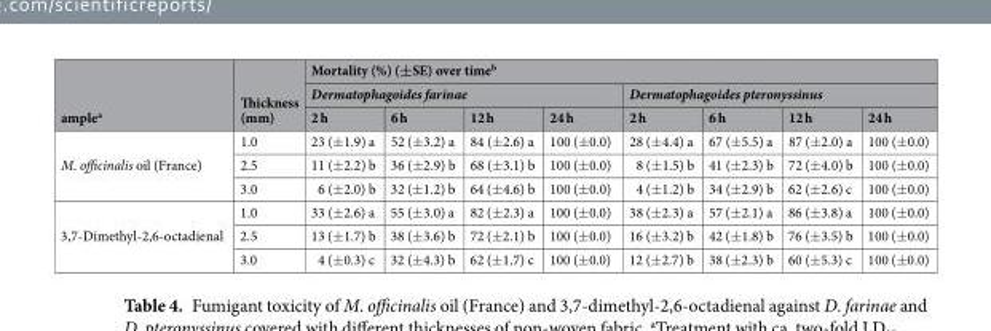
<table><thead><tr><td rowspan="3">ample<sup>a</sup></td><td rowspan="3">Thickness (mm)</td><td colspan="8">Mortality (%) (±SE) over time<sup>b</sup></td></tr><tr><td colspan="4">Dermatophagoides farinae</td><td colspan="4">Dermatophagoides pteronyssinus</td></tr><tr><td>2 h</td><td>6 h</td><td>12 h</td><td>24 h</td><td>2 h</td><td>6 h</td><td>12 h</td><td>24 h</td></tr></thead><tbody><tr><td rowspan="3">M. officinalis oil (France)</td><td>1.0</td><td>23 (±1.9) a</td><td>52 (±3.2) a</td><td>84 (±2.6) a</td><td>100 (±0.0)</td><td>28 (±4.4) a</td><td>67 (±5.5) a</td><td>87 (±2.0) a</td><td>100 (±0.0)</td></tr><tr><td>2.5</td><td>11 (±2.2) b</td><td>36 (±2.9) b</td><td>68 (±3.1) b</td><td>100 (±0.0)</td><td>8 (±1.5) b</td><td>41 (±2.3) b</td><td>72 (±4.0) b</td><td>100 (±0.0)</td></tr><tr><td>3.0</td><td>6 (±2.0) b</td><td>32 (±1.2) b</td><td>64 (±4.6) b</td><td>100 (±0.0)</td><td>4 (±1.2) b</td><td>34 (±2.9) b</td><td>62 (±2.6) c</td><td>100 (±0.0)</td></tr><tr><td rowspan="3">3,7-Dimethyl-2,6-octadienal</td><td>1.0</td><td>33 (±2.6) a</td><td>55 (±3.0) a</td><td>82 (±2.3) a</td><td>100 (±0.0)</td><td>38 (±2.3) a</td><td>57 (±2.1) a</td><td>86 (±3.8) a</td><td>100 (±0.0)</td></tr><tr><td>2.5</td><td>13 (±1.7) b</td><td>38 (±3.6) b</td><td>72 (±2.1) b</td><td>100 (±0.0)</td><td>16 (±3.2) b</td><td>42 (±1.8) b</td><td>76 (±3.5) b</td><td>100 (±0.0)</td></tr><tr><td>3.0</td><td>4 (±0.3) c</td><td>32 (±4.3) b</td><td>62 (±1.7) c</td><td>100 (±0.0)</td><td>12 (±2.7) b</td><td>38 (±2.3) b</td><td>60 (±5.3) c</td><td>100 (±0.0)</td></tr></tbody></table>